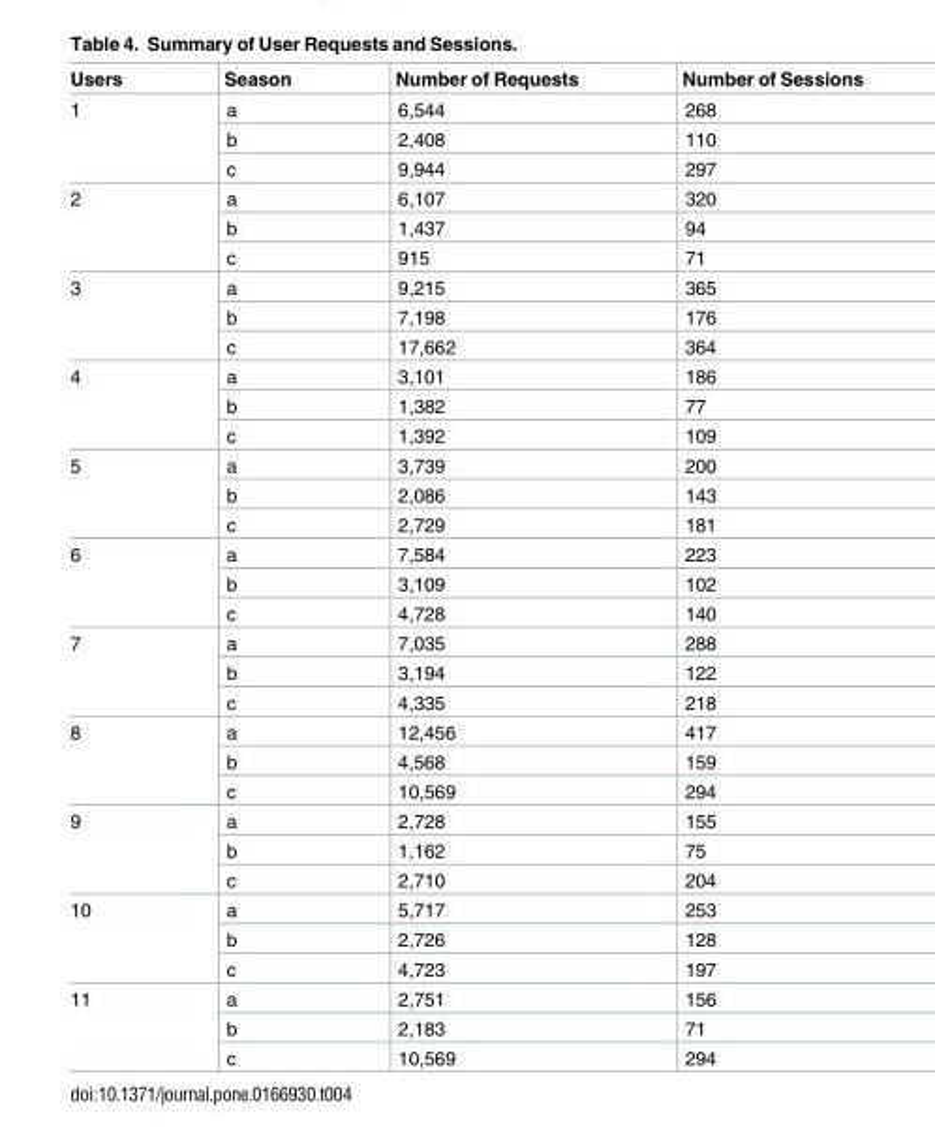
<table><thead><tr><td>Users</td><td>Season</td><td>Number of Requests</td><td>Number of Sessions</td></tr></thead><tbody><tr><td rowspan="3">1</td><td>a</td><td>6,544</td><td>268</td></tr><tr><td>b</td><td>2,408</td><td>110</td></tr><tr><td>c</td><td>9,944</td><td>297</td></tr><tr><td rowspan="3">2</td><td>a</td><td>6,107</td><td>320</td></tr><tr><td>b</td><td>1,437</td><td>94</td></tr><tr><td>c</td><td>915</td><td>71</td></tr><tr><td rowspan="3">3</td><td>a</td><td>9,215</td><td>365</td></tr><tr><td>b</td><td>7,198</td><td>176</td></tr><tr><td>c</td><td>17,662</td><td>364</td></tr><tr><td rowspan="3">4</td><td>a</td><td>3,101</td><td>186</td></tr><tr><td>b</td><td>1,382</td><td>77</td></tr><tr><td>c</td><td>1,392</td><td>109</td></tr><tr><td rowspan="3">5</td><td>a</td><td>3,739</td><td>200</td></tr><tr><td>b</td><td>2,086</td><td>143</td></tr><tr><td>c</td><td>2,729</td><td>181</td></tr><tr><td rowspan="3">6</td><td>a</td><td>7,584</td><td>223</td></tr><tr><td>b</td><td>3,109</td><td>102</td></tr><tr><td>c</td><td>4,728</td><td>140</td></tr><tr><td rowspan="3">7</td><td>a</td><td>7,035</td><td>288</td></tr><tr><td>b</td><td>3,194</td><td>122</td></tr><tr><td>c</td><td>4,335</td><td>218</td></tr><tr><td rowspan="3">8</td><td>a</td><td>12,456</td><td>417</td></tr><tr><td>b</td><td>4,568</td><td>159</td></tr><tr><td>c</td><td>10,569</td><td>294</td></tr><tr><td rowspan="3">9</td><td>a</td><td>2,728</td><td>155</td></tr><tr><td>b</td><td>1,162</td><td>75</td></tr><tr><td>c</td><td>2,710</td><td>204</td></tr><tr><td rowspan="3">10</td><td>a</td><td>5,717</td><td>253</td></tr><tr><td>b</td><td>2,726</td><td>128</td></tr><tr><td>c</td><td>4,723</td><td>197</td></tr><tr><td rowspan="3">11</td><td>a</td><td>2,751</td><td>156</td></tr><tr><td>b</td><td>2,183</td><td>71</td></tr><tr><td>c</td><td>10,569</td><td>294</td></tr></tbody></table>